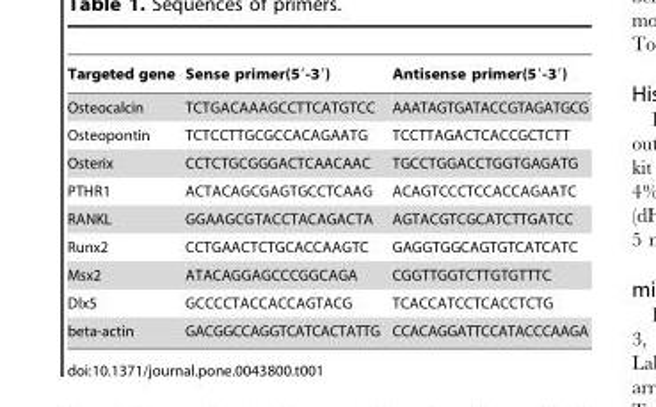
<table><thead><tr><td>Targeted gene</td><td>Sense primer(5′-3′)</td><td>Antisense primer(5′-3′)</td></tr></thead><tbody><tr><td>Osteocalcin</td><td>TCTGACAAAGCCTTCATGTCC</td><td>AAATAGTGATACCGTAGATGCG</td></tr><tr><td>Osteopontin</td><td>TCTCCTTGCGCCACAGAATG</td><td>TCCTTAGACTCACCGCTCTT</td></tr><tr><td>Osterix</td><td>CCTCTGCGGGACTCAACAAC</td><td>TGCCTGGACCTGGTGAGATG</td></tr><tr><td>PTHR1</td><td>ACTACAGCGAGTGCCTCAAG</td><td>ACAGTCCCTCCACCAGAATC</td></tr><tr><td>RANKL</td><td>GGAAGCGTACCTACAGACTA</td><td>AGTACGTCGCATCTTGATCC</td></tr><tr><td>Runx2</td><td>CCTGAACTCTGCACCAAGTC</td><td>GAGGTGGCAGTGTCATCATC</td></tr><tr><td>Msx2</td><td>ATACAGGAGCCCGGCAGA</td><td>CGGTTGGTCTTGTGTTTC</td></tr><tr><td>Dlx5</td><td>GCCCCTACCACCAGTACG</td><td>TCACCATCCTCACCTCTG</td></tr><tr><td>beta-actin</td><td>GACGGCCAGGTCATCACTATTG</td><td>CCACAGGATTCCATACCCAAGA</td></tr></tbody></table>